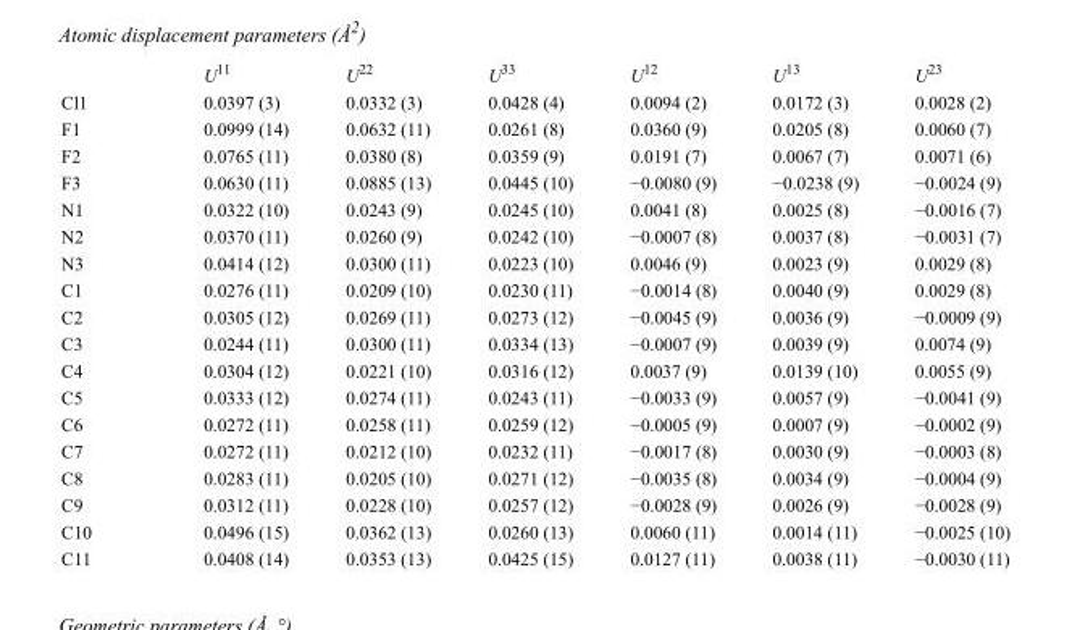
<table><thead><tr><td></td><td>U<sup>11</sup></td><td>U<sup>22</sup></td><td>U<sup>33</sup></td><td>U<sup>12</sup></td><td>U<sup>13</sup></td><td>U<sup>23</sup></td></tr></thead><tbody><tr><td>Cl1</td><td>0.0397 (3)</td><td>0.0332 (3)</td><td>0.0428 (4)</td><td>0.0094 (2)</td><td>0.0172 (3)</td><td>0.0028 (2)</td></tr><tr><td>F1</td><td>0.0999 (14)</td><td>0.0632 (11)</td><td>0.0261 (8)</td><td>0.0360 (9)</td><td>0.0205 (8)</td><td>0.0060 (7)</td></tr><tr><td>F2</td><td>0.0765 (11)</td><td>0.0380 (8)</td><td>0.0359 (9)</td><td>0.0191 (7)</td><td>0.0067 (7)</td><td>0.0071 (6)</td></tr><tr><td>F3</td><td>0.0630 (11)</td><td>0.0885 (13)</td><td>0.0445 (10)</td><td>−0.0080 (9)</td><td>−0.0238 (9)</td><td>−0.0024 (9)</td></tr><tr><td>N1</td><td>0.0322 (10)</td><td>0.0243 (9)</td><td>0.0245 (10)</td><td>0.0041 (8)</td><td>0.0025 (8)</td><td>−0.0016 (7)</td></tr><tr><td>N2</td><td>0.0370 (11)</td><td>0.0260 (9)</td><td>0.0242 (10)</td><td>−0.0007 (8)</td><td>0.0037 (8)</td><td>−0.0031 (7)</td></tr><tr><td>N3</td><td>0.0414 (12)</td><td>0.0300 (11)</td><td>0.0223 (10)</td><td>0.0046 (9)</td><td>0.0023 (9)</td><td>0.0029 (8)</td></tr><tr><td>C1</td><td>0.0276 (11)</td><td>0.0209 (10)</td><td>0.0230 (11)</td><td>−0.0014 (8)</td><td>0.0040 (9)</td><td>0.0029 (8)</td></tr><tr><td>C2</td><td>0.0305 (12)</td><td>0.0269 (11)</td><td>0.0273 (12)</td><td>−0.0045 (9)</td><td>0.0036 (9)</td><td>−0.0009 (9)</td></tr><tr><td>C3</td><td>0.0244 (11)</td><td>0.0300 (11)</td><td>0.0334 (13)</td><td>−0.0007 (9)</td><td>0.0039 (9)</td><td>0.0074 (9)</td></tr><tr><td>C4</td><td>0.0304 (12)</td><td>0.0221 (10)</td><td>0.0316 (12)</td><td>0.0037 (9)</td><td>0.0139 (10)</td><td>0.0055 (9)</td></tr><tr><td>C5</td><td>0.0333 (12)</td><td>0.0274 (11)</td><td>0.0243 (11)</td><td>−0.0033 (9)</td><td>0.0057 (9)</td><td>−0.0041 (9)</td></tr><tr><td>C6</td><td>0.0272 (11)</td><td>0.0258 (11)</td><td>0.0259 (12)</td><td>−0.0005 (9)</td><td>0.0007 (9)</td><td>−0.0002 (9)</td></tr><tr><td>C7</td><td>0.0272 (11)</td><td>0.0212 (10)</td><td>0.0232 (11)</td><td>−0.0017 (8)</td><td>0.0030 (9)</td><td>−0.0003 (8)</td></tr><tr><td>C8</td><td>0.0283 (11)</td><td>0.0205 (10)</td><td>0.0271 (12)</td><td>−0.0035 (8)</td><td>0.0034 (9)</td><td>−0.0004 (9)</td></tr><tr><td>C9</td><td>0.0312 (11)</td><td>0.0228 (10)</td><td>0.0257 (12)</td><td>−0.0028 (9)</td><td>0.0026 (9)</td><td>−0.0028 (9)</td></tr><tr><td>C10</td><td>0.0496 (15)</td><td>0.0362 (13)</td><td>0.0260 (13)</td><td>0.0060 (11)</td><td>0.0014 (11)</td><td>−0.0025 (10)</td></tr><tr><td>C11</td><td>0.0408 (14)</td><td>0.0353 (13)</td><td>0.0425 (15)</td><td>0.0127 (11)</td><td>0.0038 (11)</td><td>−0.0030 (11)</td></tr></tbody></table>